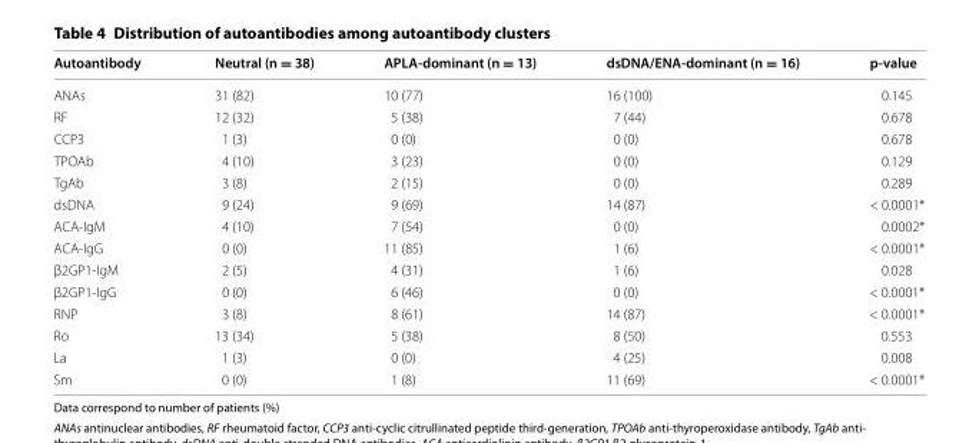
<table><thead><tr><td>Autoantibody</td><td>Neutral (n = 38)</td><td>APLA-dominant (n = 13)</td><td>dsDNA/ENA-dominant (n = 16)</td><td>p-value</td></tr></thead><tbody><tr><td>ANAs</td><td>31 (82)</td><td>10 (77)</td><td>16 (100)</td><td>0.145</td></tr><tr><td>RF</td><td>12 (32)</td><td>5 (38)</td><td>7 (44)</td><td>0.678</td></tr><tr><td>CCP3</td><td>1 (3)</td><td>0 (0)</td><td>0 (0)</td><td>0.678</td></tr><tr><td>TPOAb</td><td>4 (10)</td><td>3 (23)</td><td>0 (0)</td><td>0.129</td></tr><tr><td>TgAb</td><td>3 (8)</td><td>2 (15)</td><td>0 (0)</td><td>0.289</td></tr><tr><td>dsDNA</td><td>9 (24)</td><td>9 (69)</td><td>14 (87)</td><td>&lt; 0.0001*</td></tr><tr><td>ACA‑IgM</td><td>4 (10)</td><td>7 (54)</td><td>0 (0)</td><td>0.0002*</td></tr><tr><td>ACA‑IgG</td><td>0 (0)</td><td>11 (85)</td><td>1 (6)</td><td>&lt; 0.0001*</td></tr><tr><td>β2GP1‑IgM</td><td>2 (5)</td><td>4 (31)</td><td>1 (6)</td><td>0.028</td></tr><tr><td>β2GP1‑IgG</td><td>0 (0)</td><td>6 (46)</td><td>0 (0)</td><td>&lt; 0.0001*</td></tr><tr><td>RNP</td><td>3 (8)</td><td>8 (61)</td><td>14 (87)</td><td>&lt; 0.0001*</td></tr><tr><td>Ro</td><td>13 (34)</td><td>5 (38)</td><td>8 (50)</td><td>0.553</td></tr><tr><td>La</td><td>1 (3)</td><td>0 (0)</td><td>4 (25)</td><td>0.008</td></tr><tr><td>Sm</td><td>0 (0)</td><td>1 (8)</td><td>11 (69)</td><td>&lt; 0.0001*</td></tr></tbody></table>